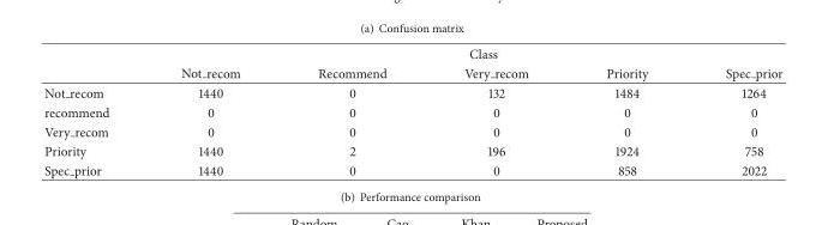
<table><thead><tr><td rowspan="2"></td><td colspan="5">Class</td></tr><tr><td>Not recom</td><td>Recommend</td><td>Very recom</td><td>Priority</td><td>Spec prior</td></tr></thead><tbody><tr><td>Not recom</td><td>1440</td><td>0</td><td>132</td><td>1484</td><td>1264</td></tr><tr><td>recommend</td><td>0</td><td>0</td><td>0</td><td>0</td><td>0</td></tr><tr><td>Very recom</td><td>0</td><td>0</td><td>0</td><td>0</td><td>0</td></tr><tr><td>Priority</td><td>1440</td><td>2</td><td>196</td><td>1924</td><td>758</td></tr><tr><td>Spec prior</td><td>1440</td><td>0</td><td>0</td><td>858</td><td>2022</td></tr></tbody></table>